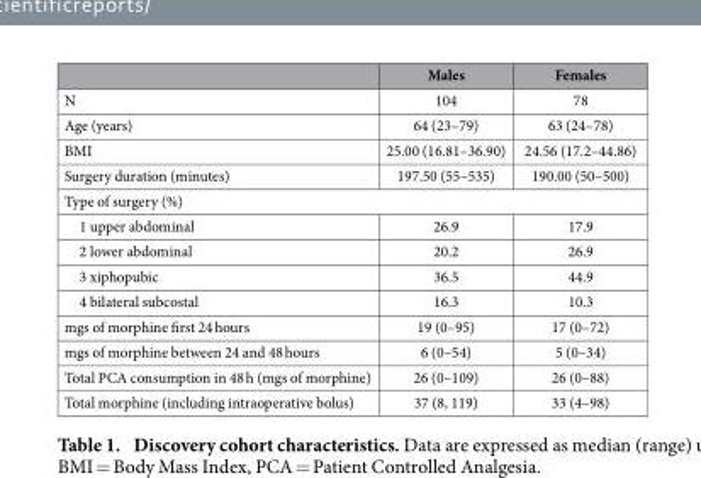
<table><thead><tr><td></td><td>Males</td><td>Females</td></tr></thead><tbody><tr><td>N</td><td>104</td><td>78</td></tr><tr><td>Age (years)</td><td>64 (23–79)</td><td>63 (24–78)</td></tr><tr><td>BMI</td><td>25.00 (16.81–36.90)</td><td>24.56 (17.2–44.86)</td></tr><tr><td>Surgery duration (minutes)</td><td>197.50 (55–535)</td><td>190.00 (50–500)</td></tr><tr><td colspan="3">Type of surgery (%)</td></tr><tr><td>1 upper abdominal</td><td>26.9</td><td>17.9</td></tr><tr><td>2 lower abdominal</td><td>20.2</td><td>26.9</td></tr><tr><td>3 xiphopubic</td><td>36.5</td><td>44.9</td></tr><tr><td>4 bilateral subcostal</td><td>16.3</td><td>10.3</td></tr><tr><td>mgs of morphine first 24 hours</td><td>19 (0–95)</td><td>17 (0–72)</td></tr><tr><td>mgs of morphine between 24 and 48 hours</td><td>6 (0–54)</td><td>5 (0–34)</td></tr><tr><td>Total PCA consumption in 48 h (mgs of morphine)</td><td>26 (0–109)</td><td>26 (0–88)</td></tr><tr><td>Total morphine (including intraoperative bolus)</td><td>37 (8, 119)</td><td>33 (4–98)</td></tr></tbody></table>